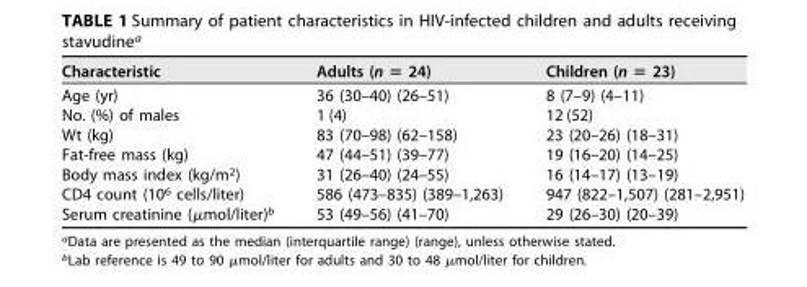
<table><thead><tr><td>Characteristic</td><td>Adults (n = 24)</td><td>Children (n = 23)</td></tr></thead><tbody><tr><td>Age (yr)</td><td>36 (30–40) (26–51)</td><td>8 (7–9) (4–11)</td></tr><tr><td>No. (%) of males</td><td>1 (4)</td><td>12 (52)</td></tr><tr><td>Wt (kg)</td><td>83 (70–98) (62–158)</td><td>23 (20–26) (18–31)</td></tr><tr><td>Fat-free mass (kg)</td><td>47 (44–51) (39–77)</td><td>19 (16–20) (14–25)</td></tr><tr><td>Body mass index (kg/m<sup>2</sup>)</td><td>31 (26–40) (24–55)</td><td>16 (14–17) (13–19)</td></tr><tr><td>CD4 count (10<sup>6</sup> cells/liter)</td><td>586 (473–835) (389–1,263)</td><td>947 (822–1,507) (281–2,951)</td></tr><tr><td>Serum creatinine (μmol/liter)<sup>b</sup></td><td>53 (49–56) (41–70)</td><td>29 (26–30) (20–39)</td></tr></tbody></table>